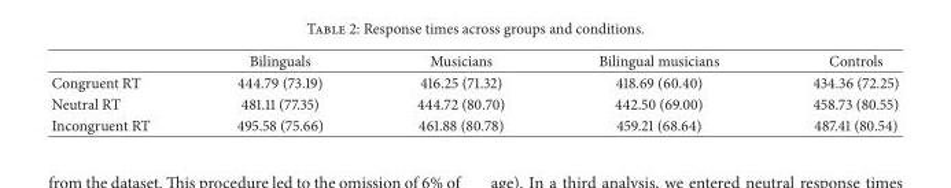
<table><thead><tr><td></td><td>Bilinguals</td><td>Musicians</td><td>Bilingual musicians</td><td>Controls</td></tr></thead><tbody><tr><td>Congruent RT</td><td>444.79 (73.19)</td><td>416.25 (71.32)</td><td>418.69 (60.40)</td><td>434.36 (72.25)</td></tr><tr><td>Neutral RT</td><td>481.11 (77.35)</td><td>444.72 (80.70)</td><td>442.50 (69.00)</td><td>458.73 (80.55)</td></tr><tr><td>Incongruent RT</td><td>495.58 (75.66)</td><td>461.88 (80.78)</td><td>459.21 (68.64)</td><td>487.41 (80.54)</td></tr></tbody></table>